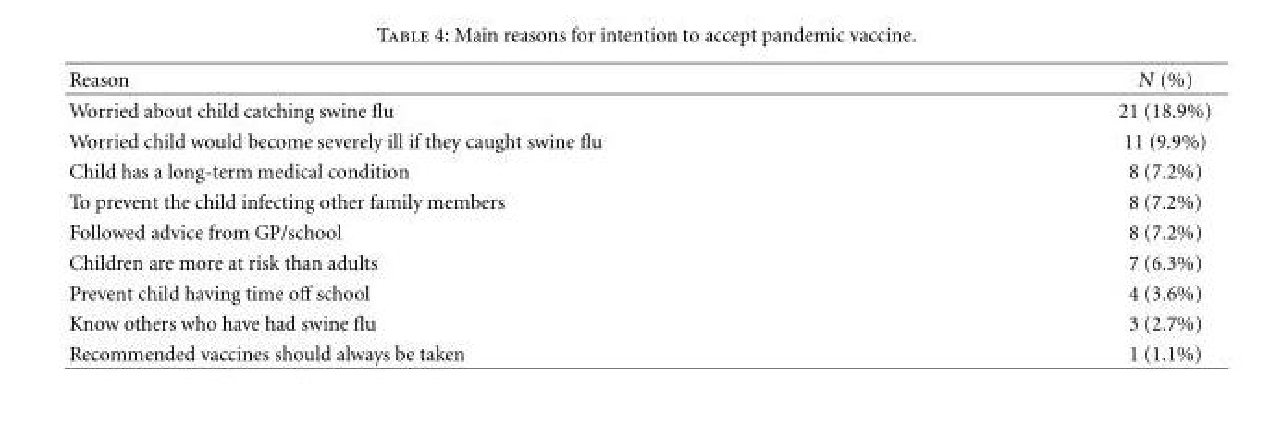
<table><thead><tr><td>Reason</td><td>N (%)</td></tr></thead><tbody><tr><td>Worried about child catching swine flu</td><td>21 (18.9%)</td></tr><tr><td>Worried child would become severely ill if they caught swine flu</td><td>11 (9.9%)</td></tr><tr><td>Child has a long-term medical condition</td><td>8 (7.2%)</td></tr><tr><td>To prevent the child infecting other family members</td><td>8 (7.2%)</td></tr><tr><td>Followed advice from GP/school</td><td>8 (7.2%)</td></tr><tr><td>Children are more at risk than adults</td><td>7 (6.3%)</td></tr><tr><td>Prevent child having time off school</td><td>4 (3.6%)</td></tr><tr><td>Know others who have had swine flu</td><td>3 (2.7%)</td></tr><tr><td>Recommended vaccines should always be taken</td><td>1 (1.1%)</td></tr></tbody></table>